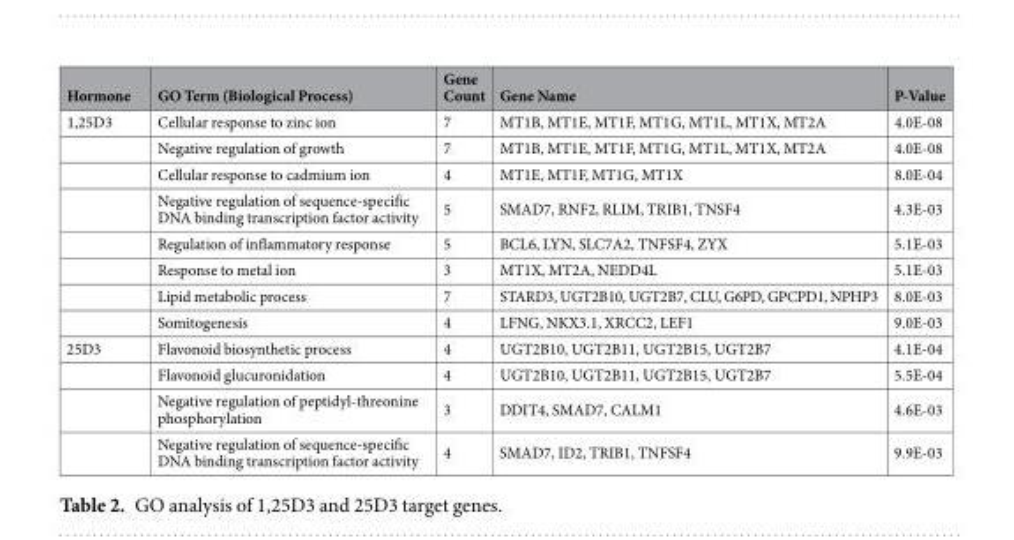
<table><thead><tr><td>Hormone</td><td>GO Term (Biological Process)</td><td>Gene Count</td><td>Gene Name</td><td>P-Value</td></tr></thead><tbody><tr><td rowspan="8">1,25D3</td><td>Cellular response to zinc ion</td><td>7</td><td>MT1B, MT1E, MT1F, MT1G, MT1L, MT1X, MT2A</td><td>4.0E-08</td></tr><tr><td>Negative regulation of growth</td><td>7</td><td>MT1B, MT1E, MT1F, MT1G, MT1L, MT1X, MT2A</td><td>4.0E-08</td></tr><tr><td>Cellular response to cadmium ion</td><td>4</td><td>MT1E, MT1F, MT1G, MT1X</td><td>8.0E-04</td></tr><tr><td>Negative regulation of sequence-specific DNA binding transcription factor activity</td><td>5</td><td>SMAD7, RNF2, RLIM, TRIB1, TNSF4</td><td>4.3E-03</td></tr><tr><td>Regulation of inflammatory response</td><td>5</td><td>BCL6, LYN, SLC7A2, TNFSF4, ZYX</td><td>5.1E-03</td></tr><tr><td>Response to metal ion</td><td>3</td><td>MT1X, MT2A, NEDD4L</td><td>5.1E-03</td></tr><tr><td>Lipid metabolic process</td><td>7</td><td>STARD3, UGT2B10, UGT2B7, CLU, G6PD, GPCPD1, NPHP3</td><td>8.0E-03</td></tr><tr><td>Somitogenesis</td><td>4</td><td>LFNG, NKX3.1, XRCC2, LEF1</td><td>9.0E-03</td></tr><tr><td rowspan="4">25D3</td><td>Flavonoid biosynthetic process</td><td>4</td><td>UGT2B10, UGT2B11, UGT2B15, UGT2B7</td><td>4.1E-04</td></tr><tr><td>Flavonoid glucuronidation</td><td>4</td><td>UGT2B10, UGT2B11, UGT2B15, UGT2B7</td><td>5.5E-04</td></tr><tr><td>Negative regulation of peptidyl-threonine phosphorylation</td><td>3</td><td>DDIT4, SMAD7, CALM1</td><td>4.6E-03</td></tr><tr><td>Negative regulation of sequence-specific DNA binding transcription factor activity</td><td>4</td><td>SMAD7, ID2, TRIB1, TNFSF4</td><td>9.9E-03</td></tr></tbody></table>